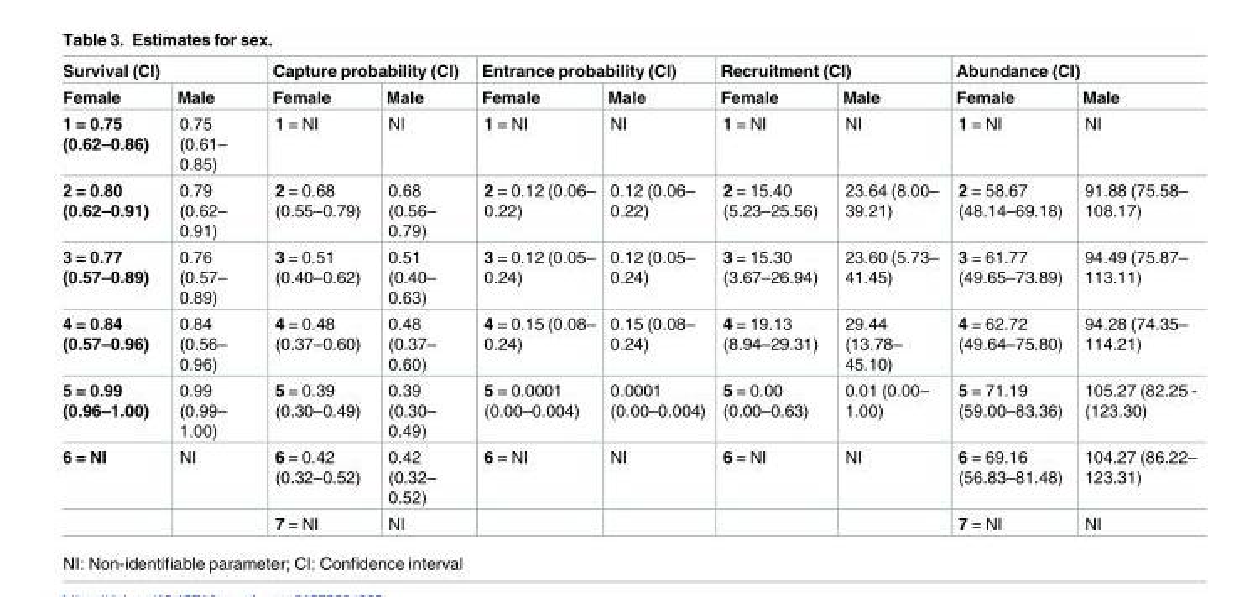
<table><thead><tr><td colspan="2">Survival (CI)</td><td colspan="2">Capture probability (CI)</td><td colspan="2">Entrance probability (CI)</td><td colspan="2">Recruitment (CI)</td><td colspan="2">Abundance (CI)</td></tr><tr><td>Female</td><td>Male</td><td>Female</td><td>Male</td><td>Female</td><td>Male</td><td>Female</td><td>Male</td><td>Female</td><td>Male</td></tr></thead><tbody><tr><td>1 = 0.75 (0.62–0.86)</td><td>0.75 (0.61– 0.85)</td><td>1 = NI</td><td>NI</td><td>1 = NI</td><td>NI</td><td>1 = NI</td><td>NI</td><td>1 = NI</td><td>NI</td></tr><tr><td>2 = 0.80 (0.62–0.91)</td><td>0.79 (0.62– 0.91)</td><td>2 = 0.68 (0.55–0.79)</td><td>0.68 (0.56– 0.79)</td><td>2 = 0.12 (0.06– 0.22)</td><td>0.12 (0.06– 0.22)</td><td>2 = 15.40 (5.23–25.56)</td><td>23.64 (8.00– 39.21)</td><td>2 = 58.67 (48.14–69.18)</td><td>91.88 (75.58– 108.17)</td></tr><tr><td>3 = 0.77 (0.57–0.89)</td><td>0.76 (0.57– 0.89)</td><td>3 = 0.51 (0.40–0.62)</td><td>0.51 (0.40– 0.63)</td><td>3 = 0.12 (0.05– 0.24)</td><td>0.12 (0.05– 0.24)</td><td>3 = 15.30 (3.67–26.94)</td><td>23.60 (5.73– 41.45)</td><td>3 = 61.77 (49.65–73.89)</td><td>94.49 (75.87– 113.11)</td></tr><tr><td>4 = 0.84 (0.57–0.96)</td><td>0.84 (0.56– 0.96)</td><td>4 = 0.48 (0.37–0.60)</td><td>0.48 (0.37– 0.60)</td><td>4 = 0.15 (0.08– 0.24)</td><td>0.15 (0.08– 0.24)</td><td>4 = 19.13 (8.94–29.31)</td><td>29.44 (13.78– 45.10)</td><td>4 = 62.72 (49.64–75.80)</td><td>94.28 (74.35– 114.21)</td></tr><tr><td>5 = 0.99 (0.96–1.00)</td><td>0.99 (0.99– 1.00)</td><td>5 = 0.39 (0.30–0.49)</td><td>0.39 (0.30– 0.49)</td><td>5 = 0.0001 (0.00–0.004)</td><td>0.0001 (0.00–0.004)</td><td>5 = 0.00 (0.00–0.63)</td><td>0.01 (0.00– 1.00)</td><td>5 = 71.19 (59.00–83.36)</td><td>105.27 (82.25 - (123.30)</td></tr><tr><td rowspan="2">6 = NI</td><td>NI</td><td>6 = 0.42 (0.32–0.52)</td><td>0.42 (0.32– 0.52)</td><td>6 = NI</td><td>NI</td><td>6 = NI</td><td>NI</td><td>6 = 69.16 (56.83–81.48)</td><td>104.27 (86.22– 123.31)</td></tr><tr><td></td><td>7 = NI</td><td>NI</td><td></td><td></td><td></td><td></td><td>7 = NI</td><td>NI</td></tr></tbody></table>